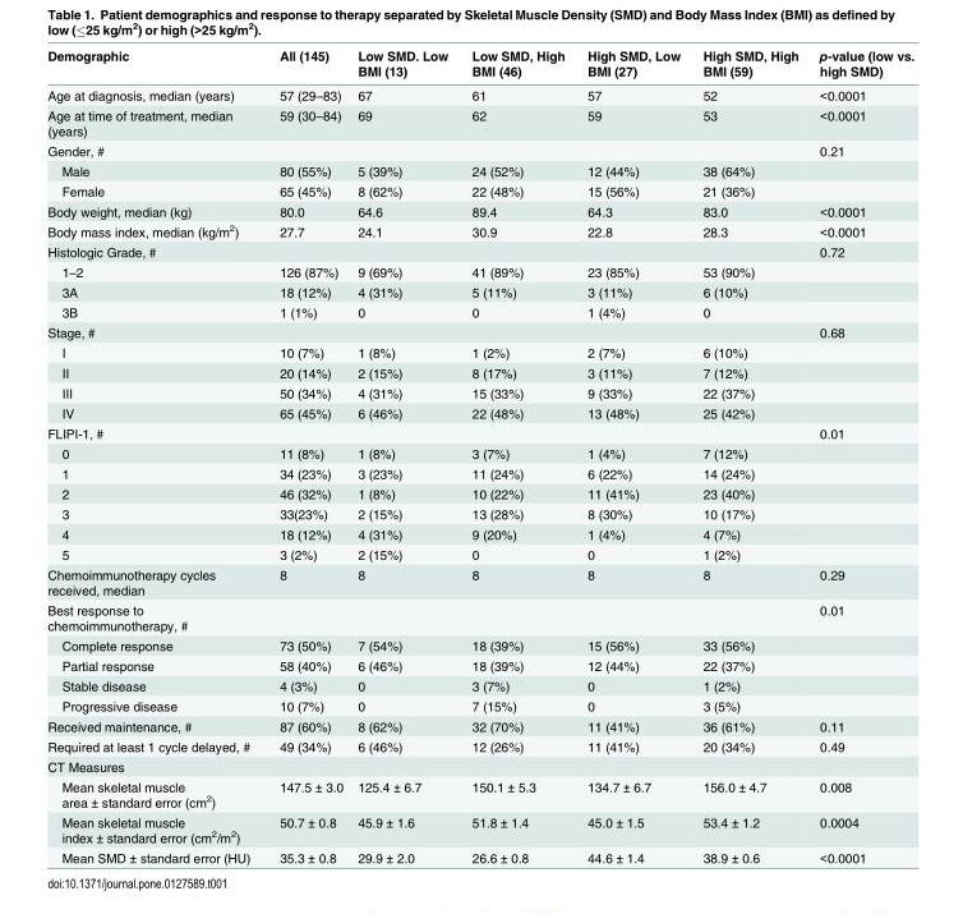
<table><thead><tr><td>Demographic</td><td>All (145)</td><td>Low SMD. Low BMI (13)</td><td>Low SMD, High BMI (46)</td><td>High SMD, Low BMI (27)</td><td>High SMD, High BMI (59)</td><td>p-value (low vs. high SMD)</td></tr></thead><tbody><tr><td>Age at diagnosis, median (years)</td><td>57 (29–83)</td><td>67</td><td>61</td><td>57</td><td>52</td><td>&lt;0.0001</td></tr><tr><td>Age at time of treatment, median (years)</td><td>59 (30–84)</td><td>69</td><td>62</td><td>59</td><td>53</td><td>&lt;0.0001</td></tr><tr><td>Gender, #</td><td></td><td></td><td></td><td></td><td></td><td>0.21</td></tr><tr><td>Male</td><td>80 (55%)</td><td>5 (39%)</td><td>24 (52%)</td><td>12 (44%)</td><td>38 (64%)</td><td></td></tr><tr><td>Female</td><td>65 (45%)</td><td>8 (62%)</td><td>22 (48%)</td><td>15 (56%)</td><td>21 (36%)</td><td></td></tr><tr><td>Body weight, median (kg)</td><td>80.0</td><td>64.6</td><td>89.4</td><td>64.3</td><td>83.0</td><td>&lt;0.0001</td></tr><tr><td>Body mass index, median (kg/m<sup>2</sup>)</td><td>27.7</td><td>24.1</td><td>30.9</td><td>22.8</td><td>28.3</td><td>&lt;0.0001</td></tr><tr><td>Histologic Grade, #</td><td></td><td></td><td></td><td></td><td></td><td>0.72</td></tr><tr><td>1–2</td><td>126 (87%)</td><td>9 (69%)</td><td>41 (89%)</td><td>23 (85%)</td><td>53 (90%)</td><td></td></tr><tr><td>3A</td><td>18 (12%)</td><td>4 (31%)</td><td>5 (11%)</td><td>3 (11%)</td><td>6 (10%)</td><td></td></tr><tr><td>3B</td><td>1 (1%)</td><td>0</td><td>0</td><td>1 (4%)</td><td>0</td><td></td></tr><tr><td>Stage, #</td><td></td><td></td><td></td><td></td><td></td><td>0.68</td></tr><tr><td>I</td><td>10 (7%)</td><td>1 (8%)</td><td>1 (2%)</td><td>2 (7%)</td><td>6 (10%)</td><td></td></tr><tr><td>II</td><td>20 (14%)</td><td>2 (15%)</td><td>8 (17%)</td><td>3 (11%)</td><td>7 (12%)</td><td></td></tr><tr><td>III</td><td>50 (34%)</td><td>4 (31%)</td><td>15 (33%)</td><td>9 (33%)</td><td>22 (37%)</td><td></td></tr><tr><td>IV</td><td>65 (45%)</td><td>6 (46%)</td><td>22 (48%)</td><td>13 (48%)</td><td>25 (42%)</td><td></td></tr><tr><td>FLIPI-1, #</td><td></td><td></td><td></td><td></td><td></td><td>0.01</td></tr><tr><td>0</td><td>11 (8%)</td><td>1 (8%)</td><td>3 (7%)</td><td>1 (4%)</td><td>7 (12%)</td><td></td></tr><tr><td>1</td><td>34 (23%)</td><td>3 (23%)</td><td>11 (24%)</td><td>6 (22%)</td><td>14 (24%)</td><td></td></tr><tr><td>2</td><td>46 (32%)</td><td>1 (8%)</td><td>10 (22%)</td><td>11 (41%)</td><td>23 (40%)</td><td></td></tr><tr><td>3</td><td>33(23%)</td><td>2 (15%)</td><td>13 (28%)</td><td>8 (30%)</td><td>10 (17%)</td><td></td></tr><tr><td>4</td><td>18 (12%)</td><td>4 (31%)</td><td>9 (20%)</td><td>1 (4%)</td><td>4 (7%)</td><td></td></tr><tr><td>5</td><td>3 (2%)</td><td>2 (15%)</td><td>0</td><td>0</td><td>1 (2%)</td><td></td></tr><tr><td>Chemoimmunotherapy cycles received, median</td><td>8</td><td>8</td><td>8</td><td>8</td><td>8</td><td>0.29</td></tr><tr><td>Best response to chemoimmunotherapy, #</td><td></td><td></td><td></td><td></td><td></td><td>0.01</td></tr><tr><td>Complete response</td><td>73 (50%)</td><td>7 (54%)</td><td>18 (39%)</td><td>15 (56%)</td><td>33 (56%)</td><td></td></tr><tr><td>Partial response</td><td>58 (40%)</td><td>6 (46%)</td><td>18 (39%)</td><td>12 (44%)</td><td>22 (37%)</td><td></td></tr><tr><td>Stable disease</td><td>4 (3%)</td><td>0</td><td>3 (7%)</td><td>0</td><td>1 (2%)</td><td></td></tr><tr><td>Progressive disease</td><td>10 (7%)</td><td>0</td><td>7 (15%)</td><td>0</td><td>3 (5%)</td><td></td></tr><tr><td>Received maintenance, #</td><td>87 (60%)</td><td>8 (62%)</td><td>32 (70%)</td><td>11 (41%)</td><td>36 (61%)</td><td>0.11</td></tr><tr><td>Required at least 1 cycle delayed, #</td><td>49 (34%)</td><td>6 (46%)</td><td>12 (26%)</td><td>11 (41%)</td><td>20 (34%)</td><td>0.49</td></tr><tr><td colspan="7">CT Measures</td></tr><tr><td>Mean skeletal muscle area ± standard error (cm<sup>2</sup>)</td><td>147.5 ± 3.0</td><td>125.4 ± 6.7</td><td>150.1 ± 5.3</td><td>134.7 ± 6.7</td><td>156.0 ± 4.7</td><td>0.008</td></tr><tr><td>Mean skeletal muscle index ± standard error (cm<sup>2</sup>/m<sup>2</sup>)</td><td>50.7 ± 0.8</td><td>45.9 ± 1.6</td><td>51.8 ± 1.4</td><td>45.0 ± 1.5</td><td>53.4 ± 1.2</td><td>0.0004</td></tr><tr><td>Mean SMD ± standard error (HU)</td><td>35.3 ± 0.8</td><td>29.9 ± 2.0</td><td>26.6 ± 0.8</td><td>44.6 ± 1.4</td><td>38.9 ± 0.6</td><td>&lt;0.0001</td></tr></tbody></table>